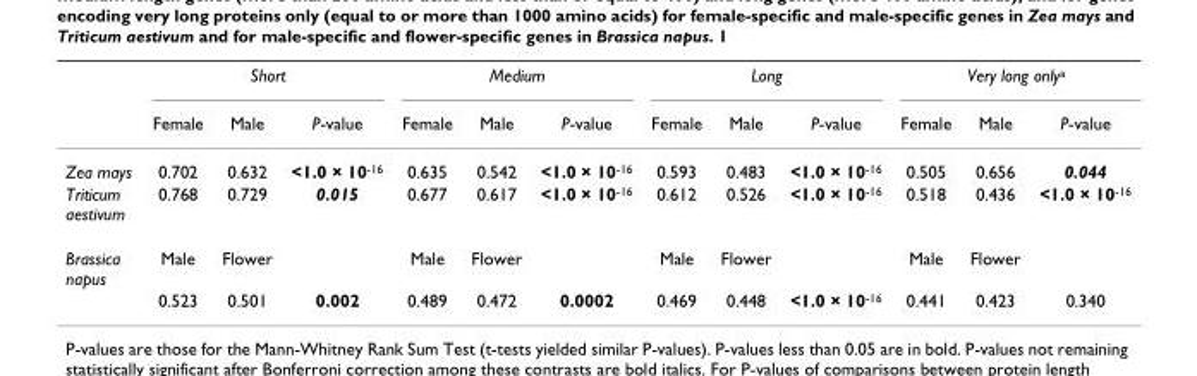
<table><thead><tr><td rowspan="2"></td><td colspan="3">Short</td><td colspan="3">Medium</td><td colspan="3">Long</td><td colspan="3">Very long only<sup>a</sup></td></tr><tr><td>Female</td><td>Male</td><td>P-value</td><td>Female</td><td>Male</td><td>P-value</td><td>Female</td><td>Male</td><td>P-value</td><td>Female</td><td>Male</td><td>P-value</td></tr></thead><tbody><tr><td>Zea mays</td><td>0.702</td><td>0.632</td><td>&lt;1.0 × 10<sup>-16</sup></td><td>0.635</td><td>0.542</td><td>&lt;1.0 × 10<sup>-16</sup></td><td>0.593</td><td>0.483</td><td>&lt;1.0 × 10<sup>-16</sup></td><td>0.505</td><td>0.656</td><td>0.044</td></tr><tr><td>Triticum aestivum</td><td>0.768</td><td>0.729</td><td>0.015</td><td>0.677</td><td>0.617</td><td>&lt;1.0 × 10<sup>-16</sup></td><td>0.612</td><td>0.526</td><td>&lt;1.0 × 10<sup>-16</sup></td><td>0.518</td><td>0.436</td><td>&lt;1.0 × 10<sup>-16</sup></td></tr><tr><td rowspan="2">Brassica napus</td><td>Male</td><td>Flower</td><td></td><td>Male</td><td>Flower</td><td></td><td>Male</td><td>Flower</td><td></td><td>Male</td><td>Flower</td><td></td></tr><tr><td>0.523</td><td>0.501</td><td>0.002</td><td>0.489</td><td>0.472</td><td>0.0002</td><td>0.469</td><td>0.448</td><td>&lt;1.0 × 10<sup>-16</sup></td><td>0.441</td><td>0.423</td><td>0.340</td></tr></tbody></table>